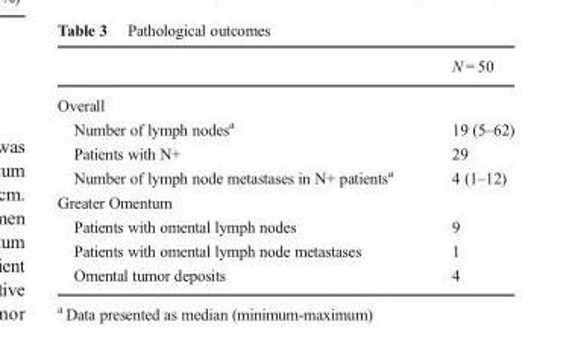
<table><thead><tr><td></td><td>N = 50</td></tr></thead><tbody><tr><td colspan="2">Overall</td></tr><tr><td>Number of lymph nodes<sup>a</sup></td><td>19 (5–62)</td></tr><tr><td>Patients with N+</td><td>29</td></tr><tr><td>Number of lymph node metastases in N+ patients<sup>a</sup></td><td>4 (1–12)</td></tr><tr><td colspan="2">Greater Omentum</td></tr><tr><td>Patients with omental lymph nodes</td><td>9</td></tr><tr><td>Patients with omental lymph node metastases</td><td>1</td></tr><tr><td>Omental tumor deposits</td><td>4</td></tr></tbody></table>